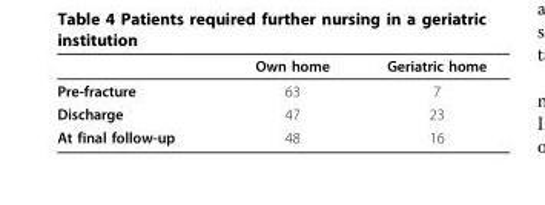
<table><thead><tr><td></td><td>Own home</td><td>Geriatric home</td></tr></thead><tbody><tr><td>Pre-fracture</td><td>63</td><td>7</td></tr><tr><td>Discharge</td><td>47</td><td>23</td></tr><tr><td>At final follow-up</td><td>48</td><td>16</td></tr></tbody></table>